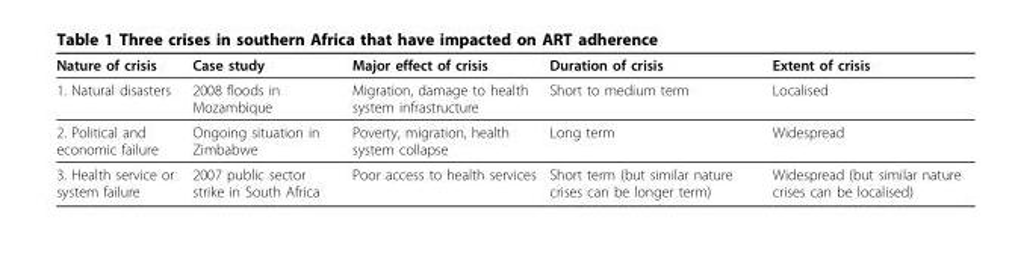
<table><thead><tr><td>Nature of crisis</td><td>Case study</td><td>Major effect of crisis</td><td>Duration of crisis</td><td>Extent of crisis</td></tr></thead><tbody><tr><td>1. Natural disasters</td><td>2008 floods in Mozambique</td><td>Migration, damage to health system infrastructure</td><td>Short to medium term</td><td>Localised</td></tr><tr><td>2. Political and economic failure</td><td>Ongoing situation in Zimbabwe</td><td>Poverty, migration, health system collapse</td><td>Long term</td><td>Widespread</td></tr><tr><td>3. Health service or system failure</td><td>2007 public sector strike in South Africa</td><td>Poor access to health services</td><td>Short term (but similar nature crises can be longer term)</td><td>Widespread (but similar nature crises can be localised)</td></tr></tbody></table>